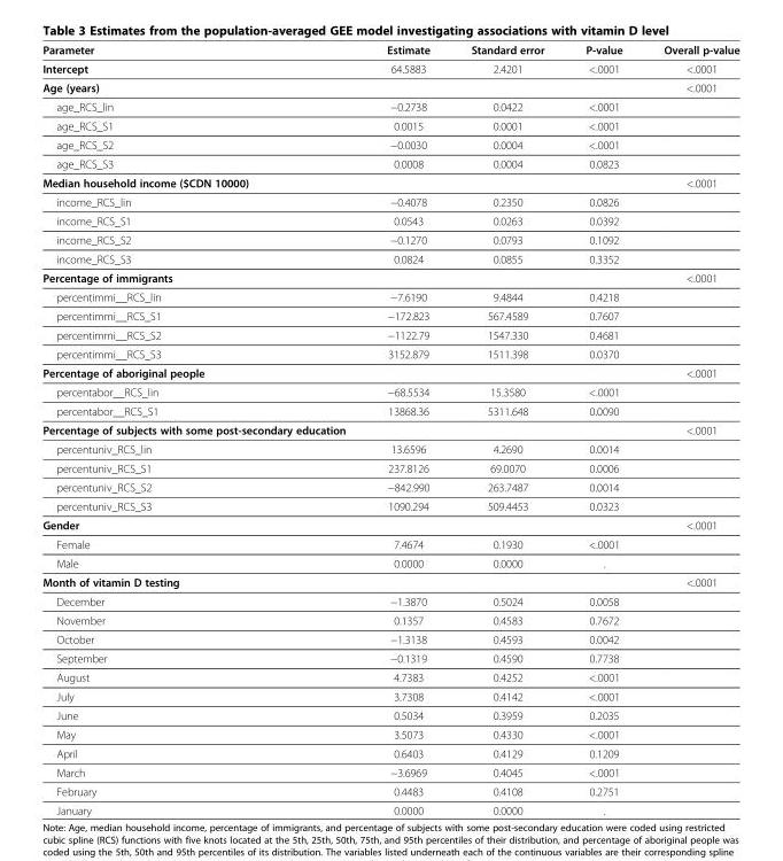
<table><thead><tr><td>Parameter</td><td>Estimate</td><td>Standard error</td><td>P-value</td><td>Overall p-value</td></tr></thead><tbody><tr><td>Intercept</td><td>64.5883</td><td>2.4201</td><td>&lt;.0001</td><td>&lt;.0001</td></tr><tr><td>Age (years)</td><td></td><td></td><td></td><td>&lt;.0001</td></tr><tr><td>age_RCS_lin</td><td>−0.2738</td><td>0.0422</td><td>&lt;.0001</td><td></td></tr><tr><td>age_RCS_S1</td><td>0.0015</td><td>0.0001</td><td>&lt;.0001</td><td></td></tr><tr><td>age_RCS_S2</td><td>−0.0030</td><td>0.0004</td><td>&lt;.0001</td><td></td></tr><tr><td>age_RCS_S3</td><td>0.0008</td><td>0.0004</td><td>0.0823</td><td></td></tr><tr><td>Median household income ($CDN 10000)</td><td></td><td></td><td></td><td>&lt;.0001</td></tr><tr><td>income_RCS_lin</td><td>−0.4078</td><td>0.2350</td><td>0.0826</td><td></td></tr><tr><td>income_RCS_S1</td><td>0.0543</td><td>0.0263</td><td>0.0392</td><td></td></tr><tr><td>income_RCS_S2</td><td>−0.1270</td><td>0.0793</td><td>0.1092</td><td></td></tr><tr><td>income_RCS_S3</td><td>0.0824</td><td>0.0855</td><td>0.3352</td><td></td></tr><tr><td>Percentage of immigrants</td><td></td><td></td><td></td><td>&lt;.0001</td></tr><tr><td>percentimmi__RCS_lin</td><td>−7.6190</td><td>9.4844</td><td>0.4218</td><td></td></tr><tr><td>percentimmi__RCS_S1</td><td>−172.823</td><td>567.4589</td><td>0.7607</td><td></td></tr><tr><td>percentimmi__RCS_S2</td><td>−1122.79</td><td>1547.330</td><td>0.4681</td><td></td></tr><tr><td>percentimmi__RCS_S3</td><td>3152.879</td><td>1511.398</td><td>0.0370</td><td></td></tr><tr><td>Percentage of aboriginal people</td><td></td><td></td><td></td><td>&lt;.0001</td></tr><tr><td>percentabor__RCS_lin</td><td>−68.5534</td><td>15.3580</td><td>&lt;.0001</td><td></td></tr><tr><td>percentabor__RCS_S1</td><td>13868.36</td><td>5311.648</td><td>0.0090</td><td></td></tr><tr><td>Percentage of subjects with some post-secondary education</td><td></td><td></td><td></td><td>&lt;.0001</td></tr><tr><td>percentuniv_RCS_lin</td><td>13.6596</td><td>4.2690</td><td>0.0014</td><td></td></tr><tr><td>percentuniv_RCS_S1</td><td>237.8126</td><td>69.0070</td><td>0.0006</td><td></td></tr><tr><td>percentuniv_RCS_S2</td><td>−842.990</td><td>263.7487</td><td>0.0014</td><td></td></tr><tr><td>percentuniv_RCS_S3</td><td>1090.294</td><td>509.4453</td><td>0.0323</td><td></td></tr><tr><td>Gender</td><td></td><td></td><td></td><td>&lt;.0001</td></tr><tr><td>Female</td><td>7.4674</td><td>0.1930</td><td>&lt;.0001</td><td></td></tr><tr><td>Male</td><td>0.0000</td><td>0.0000</td><td>.</td><td></td></tr><tr><td>Month of vitamin D testing</td><td></td><td></td><td></td><td>&lt;.0001</td></tr><tr><td>December</td><td>−1.3870</td><td>0.5024</td><td>0.0058</td><td></td></tr><tr><td>November</td><td>0.1357</td><td>0.4583</td><td>0.7672</td><td></td></tr><tr><td>October</td><td>−1.3138</td><td>0.4593</td><td>0.0042</td><td></td></tr><tr><td>September</td><td>−0.1319</td><td>0.4590</td><td>0.7738</td><td></td></tr><tr><td>August</td><td>4.7383</td><td>0.4252</td><td>&lt;.0001</td><td></td></tr><tr><td>July</td><td>3.7308</td><td>0.4142</td><td>&lt;.0001</td><td></td></tr><tr><td>June</td><td>0.5034</td><td>0.3959</td><td>0.2035</td><td></td></tr><tr><td>May</td><td>3.5073</td><td>0.4330</td><td>&lt;.0001</td><td></td></tr><tr><td>April</td><td>0.6403</td><td>0.4129</td><td>0.1209</td><td></td></tr><tr><td>March</td><td>−3.6969</td><td>0.4045</td><td>&lt;.0001</td><td></td></tr><tr><td>February</td><td>0.4483</td><td>0.4108</td><td>0.2751</td><td></td></tr><tr><td>January</td><td>0.0000</td><td>0.0000</td><td>.</td><td></td></tr></tbody></table>